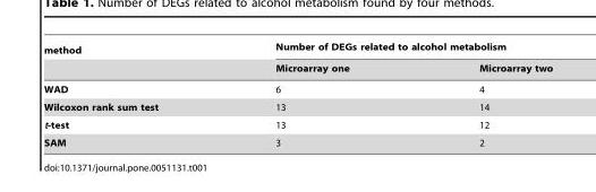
<table><thead><tr><td rowspan="2">method</td><td colspan="2">Number of DEGs related to alcohol metabolism</td></tr><tr><td>Microarray one</td><td>Microarray two</td></tr></thead><tbody><tr><td>WAD</td><td>6</td><td>4</td></tr><tr><td>Wilcoxon rank sum test</td><td>13</td><td>14</td></tr><tr><td>t-test</td><td>13</td><td>12</td></tr><tr><td>SAM</td><td>3</td><td>2</td></tr></tbody></table>